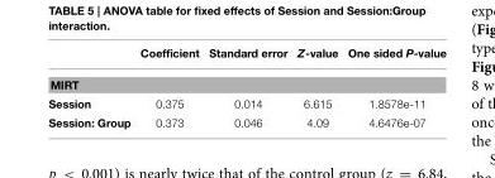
<table><thead><tr><td></td><td>Coefficient</td><td>Standard error</td><td>Z-value</td><td>One sided P-value</td></tr></thead><tbody><tr><td colspan="5">MIRT</td></tr><tr><td>Session</td><td>0.375</td><td>0.014</td><td>6.615</td><td>1.8578e-11</td></tr><tr><td>Session: Group</td><td>0.373</td><td>0.046</td><td>4.09</td><td>4.6476e-07</td></tr></tbody></table>